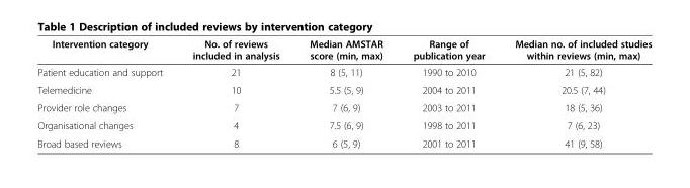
<table><thead><tr><td>Intervention category</td><td>No. of reviews included in analysis</td><td>Median AMSTAR score (min, max)</td><td>Range of publication year</td><td>Median no. of included studies within reviews (min, max)</td></tr></thead><tbody><tr><td>Patient education and support</td><td>21</td><td>8 (5, 11)</td><td>1990 to 2010</td><td>21 (5, 82)</td></tr><tr><td>Telemedicine</td><td>10</td><td>5.5 (5, 9)</td><td>2004 to 2011</td><td>20.5 (7, 44)</td></tr><tr><td>Provider role changes</td><td>7</td><td>7 (6, 9)</td><td>2003 to 2011</td><td>18 (5, 36)</td></tr><tr><td>Organisational changes</td><td>4</td><td>7.5 (6, 9)</td><td>1998 to 2011</td><td>7 (6, 23)</td></tr><tr><td>Broad based reviews</td><td>8</td><td>6 (5, 9)</td><td>2001 to 2011</td><td>41 (9, 58)</td></tr></tbody></table>